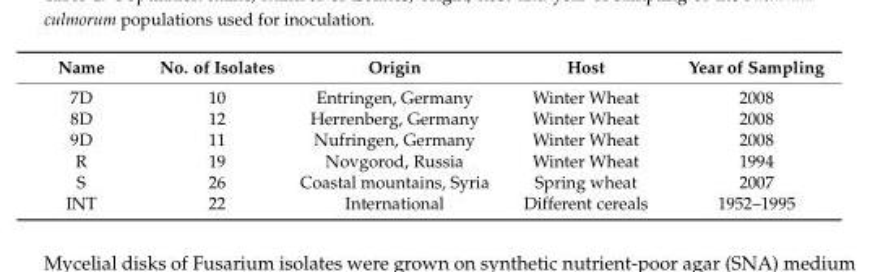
<table><thead><tr><td>Name</td><td>No. of Isolates</td><td>Origin</td><td>Host</td><td>Year of Sampling</td></tr></thead><tbody><tr><td>7D</td><td>10</td><td>Entringen, Germany</td><td>Winter Wheat</td><td>2008</td></tr><tr><td>8D</td><td>12</td><td>Herrenberg, Germany</td><td>Winter Wheat</td><td>2008</td></tr><tr><td>9D</td><td>11</td><td>Nufringen, Germany</td><td>Winter Wheat</td><td>2008</td></tr><tr><td>R</td><td>19</td><td>Novgorod, Russia</td><td>Winter Wheat</td><td>1994</td></tr><tr><td>S</td><td>26</td><td>Coastal mountains, Syria</td><td>Spring wheat</td><td>2007</td></tr><tr><td>INT</td><td>22</td><td>International</td><td>Different cereals</td><td>1952–1995</td></tr></tbody></table>